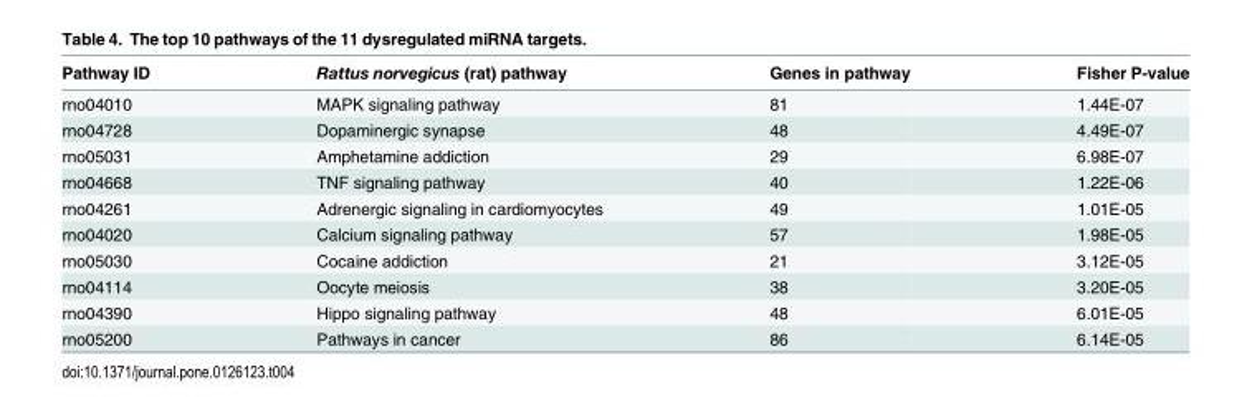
<table><thead><tr><td>Pathway ID</td><td>Rattus norvegicus (rat) pathway</td><td>Genes in pathway</td><td>Fisher P-value</td></tr></thead><tbody><tr><td>rno04010</td><td>MAPK signaling pathway</td><td>81</td><td>1.44E-07</td></tr><tr><td>rno04728</td><td>Dopaminergic synapse</td><td>48</td><td>4.49E-07</td></tr><tr><td>rno05031</td><td>Amphetamine addiction</td><td>29</td><td>6.98E-07</td></tr><tr><td>rno04668</td><td>TNF signaling pathway</td><td>40</td><td>1.22E-06</td></tr><tr><td>rno04261</td><td>Adrenergic signaling in cardiomyocytes</td><td>49</td><td>1.01E-05</td></tr><tr><td>rno04020</td><td>Calcium signaling pathway</td><td>57</td><td>1.98E-05</td></tr><tr><td>rno05030</td><td>Cocaine addiction</td><td>21</td><td>3.12E-05</td></tr><tr><td>rno04114</td><td>Oocyte meiosis</td><td>38</td><td>3.20E-05</td></tr><tr><td>rno04390</td><td>Hippo signaling pathway</td><td>48</td><td>6.01E-05</td></tr><tr><td>rno05200</td><td>Pathways in cancer</td><td>86</td><td>6.14E-05</td></tr></tbody></table>